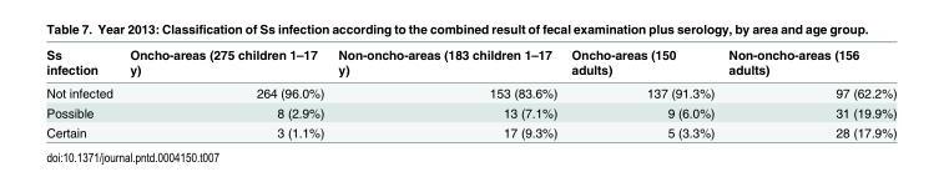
<table><thead><tr><td>Ss infection</td><td>Oncho-areas (275 children 1–17 y)</td><td>Non-oncho-areas (183 children 1–17 y)</td><td>Oncho-areas (150 adults)</td><td>Non-oncho-areas (156 adults)</td></tr></thead><tbody><tr><td>Not infected</td><td>264 (96.0%)</td><td>153 (83.6%)</td><td>137 (91.3%)</td><td>97 (62.2%)</td></tr><tr><td>Possible</td><td>8 (2.9%)</td><td>13 (7.1%)</td><td>9 (6.0%)</td><td>31 (19.9%)</td></tr><tr><td>Certain</td><td>3 (1.1%)</td><td>17 (9.3%)</td><td>5 (3.3%)</td><td>28 (17.9%)</td></tr></tbody></table>